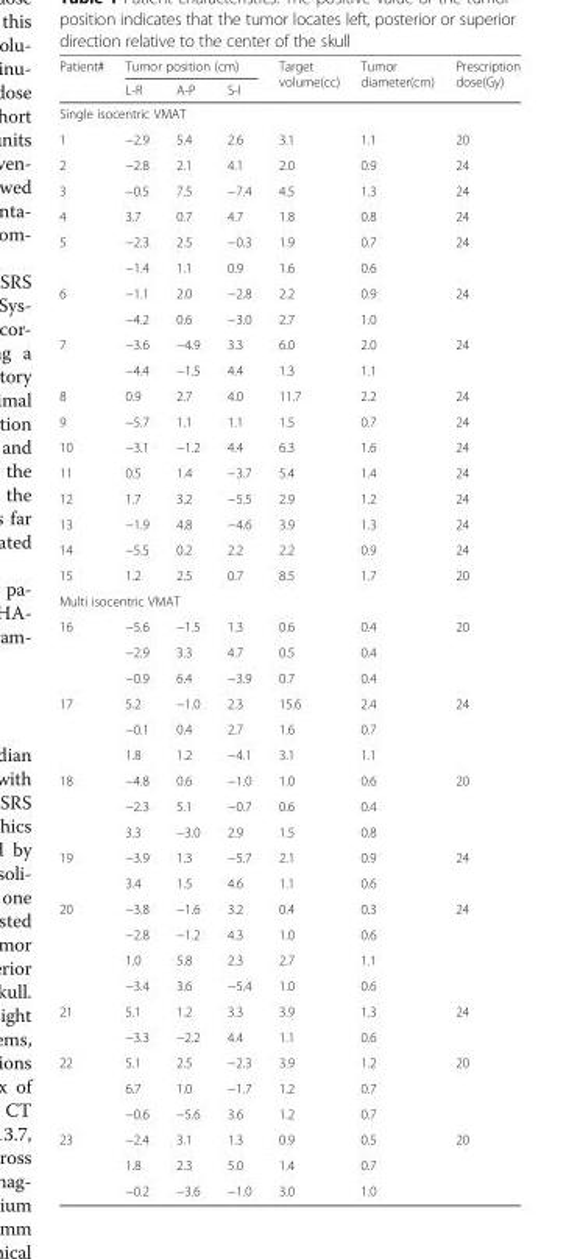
<table><thead><tr><td rowspan="2">Patient#</td><td colspan="3">Tumor position (cm)</td><td rowspan="2">Target volume(cc)</td><td rowspan="2">Tumor diameter(cm)</td><td rowspan="2">Prescription dose(Gy)</td></tr><tr><td>L-R</td><td>A-P</td><td>S-I</td></tr></thead><tbody><tr><td colspan="7">Single isocentric VMAT</td></tr><tr><td>1</td><td>−2.9</td><td>5.4</td><td>2.6</td><td>3.1</td><td>1.1</td><td>20</td></tr><tr><td>2</td><td>−2.8</td><td>2.1</td><td>4.1</td><td>2.0</td><td>0.9</td><td>24</td></tr><tr><td>3</td><td>−0.5</td><td>7.5</td><td>−7.4</td><td>4.5</td><td>1.3</td><td>24</td></tr><tr><td>4</td><td>3.7</td><td>0.7</td><td>4.7</td><td>1.8</td><td>0.8</td><td>24</td></tr><tr><td rowspan="2">5</td><td>−2.3</td><td>2.5</td><td>−0.3</td><td>1.9</td><td>0.7</td><td>24</td></tr><tr><td>−1.4</td><td>1.1</td><td>0.9</td><td>1.6</td><td>0.6</td><td></td></tr><tr><td rowspan="2">6</td><td>−1.1</td><td>2.0</td><td>−2.8</td><td>2.2</td><td>0.9</td><td>24</td></tr><tr><td>−4.2</td><td>0.6</td><td>−3.0</td><td>2.7</td><td>1.0</td><td></td></tr><tr><td rowspan="2">7</td><td>−3.6</td><td>−4.9</td><td>3.3</td><td>6.0</td><td>2.0</td><td>24</td></tr><tr><td>−4.4</td><td>−1.5</td><td>4.4</td><td>1.3</td><td>1.1</td><td></td></tr><tr><td>8</td><td>0.9</td><td>2.7</td><td>4.0</td><td>11.7</td><td>2.2</td><td>24</td></tr><tr><td>9</td><td>−5.7</td><td>1.1</td><td>1.1</td><td>1.5</td><td>0.7</td><td>24</td></tr><tr><td>10</td><td>−3.1</td><td>−1.2</td><td>4.4</td><td>6.3</td><td>1.6</td><td>24</td></tr><tr><td>11</td><td>0.5</td><td>1.4</td><td>−3.7</td><td>5.4</td><td>1.4</td><td>24</td></tr><tr><td>12</td><td>1.7</td><td>3.2</td><td>−5.5</td><td>2.9</td><td>1.2</td><td>24</td></tr><tr><td>13</td><td>−1.9</td><td>4.8</td><td>−4.6</td><td>3.9</td><td>1.3</td><td>24</td></tr><tr><td>14</td><td>−5.5</td><td>0.2</td><td>2.2</td><td>2.2</td><td>0.9</td><td>24</td></tr><tr><td>15</td><td>1.2</td><td>2.5</td><td>0.7</td><td>8.5</td><td>1.7</td><td>20</td></tr><tr><td colspan="7">Multi isocentric VMAT</td></tr><tr><td rowspan="3">16</td><td>−5.6</td><td>−1.5</td><td>1.3</td><td>0.6</td><td>0.4</td><td>20</td></tr><tr><td>−2.9</td><td>3.3</td><td>4.7</td><td>0.5</td><td>0.4</td><td></td></tr><tr><td>−0.9</td><td>6.4</td><td>−3.9</td><td>0.7</td><td>0.4</td><td></td></tr><tr><td rowspan="3">17</td><td>5.2</td><td>−1.0</td><td>2.3</td><td>15.6</td><td>2.4</td><td>24</td></tr><tr><td>−0.1</td><td>0.4</td><td>2.7</td><td>1.6</td><td>0.7</td><td></td></tr><tr><td>1.8</td><td>1.2</td><td>−4.1</td><td>3.1</td><td>1.1</td><td></td></tr><tr><td rowspan="3">18</td><td>−4.8</td><td>0.6</td><td>−1.0</td><td>1.0</td><td>0.6</td><td>20</td></tr><tr><td>−2.3</td><td>5.1</td><td>−0.7</td><td>0.6</td><td>0.4</td><td></td></tr><tr><td>3.3</td><td>−3.0</td><td>2.9</td><td>1.5</td><td>0.8</td><td></td></tr><tr><td rowspan="2">19</td><td>−3.9</td><td>1.3</td><td>−5.7</td><td>2.1</td><td>0.9</td><td>24</td></tr><tr><td>3.4</td><td>1.5</td><td>4.6</td><td>1.1</td><td>0.6</td><td></td></tr><tr><td rowspan="4">20</td><td>−3.8</td><td>−1.6</td><td>3.2</td><td>0.4</td><td>0.3</td><td>24</td></tr><tr><td>−2.8</td><td>−1.2</td><td>4.3</td><td>1.0</td><td>0.6</td><td></td></tr><tr><td>1.0</td><td>5.8</td><td>2.3</td><td>2.7</td><td>1.1</td><td></td></tr><tr><td>−3.4</td><td>3.6</td><td>−5.4</td><td>1.0</td><td>0.6</td><td></td></tr><tr><td rowspan="2">21</td><td>5.1</td><td>1.2</td><td>3.3</td><td>3.9</td><td>1.3</td><td>24</td></tr><tr><td>−3.3</td><td>−2.2</td><td>4.4</td><td>1.1</td><td>0.6</td><td></td></tr><tr><td rowspan="3">22</td><td>5.1</td><td>2.5</td><td>−2.3</td><td>3.9</td><td>1.2</td><td>20</td></tr><tr><td>6.7</td><td>1.0</td><td>−1.7</td><td>1.2</td><td>0.7</td><td></td></tr><tr><td>−0.6</td><td>−5.6</td><td>3.6</td><td>1.2</td><td>0.7</td><td></td></tr><tr><td rowspan="3">23</td><td>−2.4</td><td>3.1</td><td>1.3</td><td>0.9</td><td>0.5</td><td>20</td></tr><tr><td>1.8</td><td>2.3</td><td>5.0</td><td>1.4</td><td>0.7</td><td></td></tr><tr><td>−0.2</td><td>−3.6</td><td>−1.0</td><td>3.0</td><td>1.0</td><td></td></tr></tbody></table>